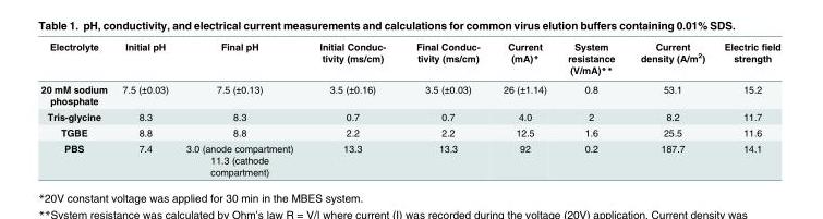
<table><thead><tr><td>Electrolyte</td><td>Initial pH</td><td>Final pH</td><td>Initial Conduc- tivity (ms/cm)</td><td>Final Conduc- tivity (ms/cm)</td><td>Current (mA)*</td><td>System resistance (V/mA)**</td><td>Current density (A/m<sup>2</sup>)</td><td>Electric field strength</td></tr></thead><tbody><tr><td>20 mM sodium phosphate</td><td>7.5 (±0.03)</td><td>7.5 (±0.13)</td><td>3.5 (±0.16)</td><td>3.5 (±0.03)</td><td>26 (±1.14)</td><td>0.8</td><td>53.1</td><td>15.2</td></tr><tr><td>Tris-glycine</td><td>8.3</td><td>8.3</td><td>0.7</td><td>0.7</td><td>4.0</td><td>2</td><td>8.2</td><td>11.7</td></tr><tr><td>TGBE</td><td>8.8</td><td>8.8</td><td>2.2</td><td>2.2</td><td>12.5</td><td>1.6</td><td>25.5</td><td>11.6</td></tr><tr><td>PBS</td><td>7.4</td><td>3.0 (anode compartment) 11.3 (cathode compartment)</td><td>13.3</td><td>13.3</td><td>92</td><td>0.2</td><td>187.7</td><td>14.1</td></tr></tbody></table>